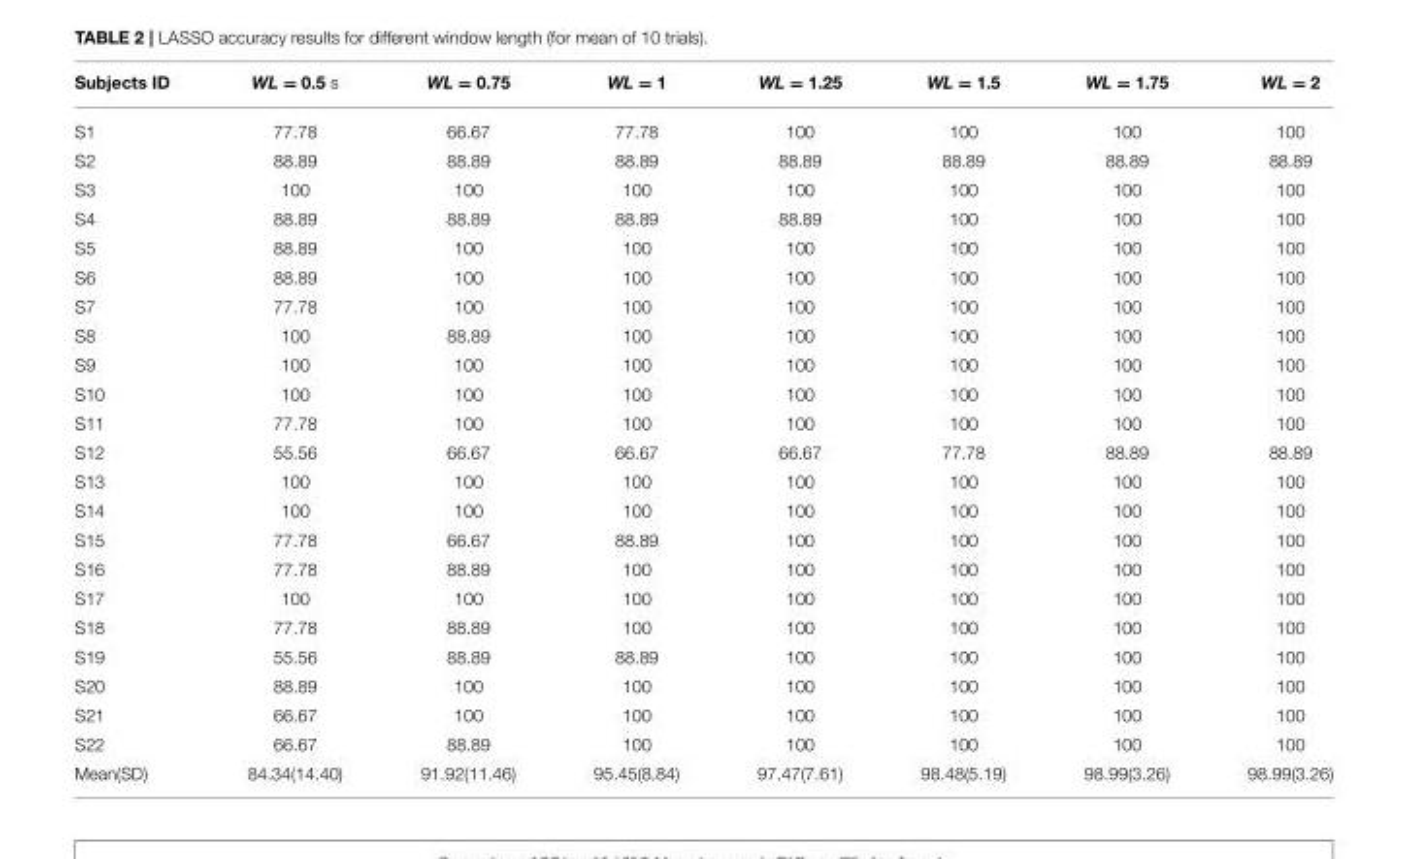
<table><thead><tr><td>Subjects ID</td><td>WL = 0.5 s</td><td>WL = 0.75</td><td>WL = 1</td><td>WL = 1.25</td><td>WL = 1.5</td><td>WL = 1.75</td><td>WL = 2</td></tr></thead><tbody><tr><td>S1</td><td>77.78</td><td>66.67</td><td>77.78</td><td>100</td><td>100</td><td>100</td><td>100</td></tr><tr><td>S2</td><td>88.89</td><td>88.89</td><td>88.89</td><td>88.89</td><td>88.89</td><td>88.89</td><td>88.89</td></tr><tr><td>S3</td><td>100</td><td>100</td><td>100</td><td>100</td><td>100</td><td>100</td><td>100</td></tr><tr><td>S4</td><td>88.89</td><td>88.89</td><td>88.89</td><td>88.89</td><td>100</td><td>100</td><td>100</td></tr><tr><td>S5</td><td>88.89</td><td>100</td><td>100</td><td>100</td><td>100</td><td>100</td><td>100</td></tr><tr><td>S6</td><td>88.89</td><td>100</td><td>100</td><td>100</td><td>100</td><td>100</td><td>100</td></tr><tr><td>S7</td><td>77.78</td><td>100</td><td>100</td><td>100</td><td>100</td><td>100</td><td>100</td></tr><tr><td>S8</td><td>100</td><td>88.89</td><td>100</td><td>100</td><td>100</td><td>100</td><td>100</td></tr><tr><td>S9</td><td>100</td><td>100</td><td>100</td><td>100</td><td>100</td><td>100</td><td>100</td></tr><tr><td>S10</td><td>100</td><td>100</td><td>100</td><td>100</td><td>100</td><td>100</td><td>100</td></tr><tr><td>S11</td><td>77.78</td><td>100</td><td>100</td><td>100</td><td>100</td><td>100</td><td>100</td></tr><tr><td>S12</td><td>55.56</td><td>66.67</td><td>66.67</td><td>66.67</td><td>77.78</td><td>88.89</td><td>88.89</td></tr><tr><td>S13</td><td>100</td><td>100</td><td>100</td><td>100</td><td>100</td><td>100</td><td>100</td></tr><tr><td>S14</td><td>100</td><td>100</td><td>100</td><td>100</td><td>100</td><td>100</td><td>100</td></tr><tr><td>S15</td><td>77.78</td><td>66.67</td><td>88.89</td><td>100</td><td>100</td><td>100</td><td>100</td></tr><tr><td>S16</td><td>77.78</td><td>88.89</td><td>100</td><td>100</td><td>100</td><td>100</td><td>100</td></tr><tr><td>S17</td><td>100</td><td>100</td><td>100</td><td>100</td><td>100</td><td>100</td><td>100</td></tr><tr><td>S18</td><td>77.78</td><td>88.89</td><td>100</td><td>100</td><td>100</td><td>100</td><td>100</td></tr><tr><td>S19</td><td>55.56</td><td>88.89</td><td>88.89</td><td>100</td><td>100</td><td>100</td><td>100</td></tr><tr><td>S20</td><td>88.89</td><td>100</td><td>100</td><td>100</td><td>100</td><td>100</td><td>100</td></tr><tr><td>S21</td><td>66.67</td><td>100</td><td>100</td><td>100</td><td>100</td><td>100</td><td>100</td></tr><tr><td>S22</td><td>66.67</td><td>88.89</td><td>100</td><td>100</td><td>100</td><td>100</td><td>100</td></tr><tr><td>Mean(SD)</td><td>84.34(14.40)</td><td>91.92(11.46)</td><td>95.45(8.84)</td><td>97.47(7.61)</td><td>98.48(5.19)</td><td>98.99(3.26)</td><td>98.99(3.26)</td></tr></tbody></table>